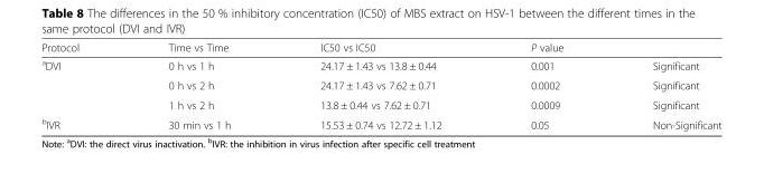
<table><thead><tr><td>Protocol</td><td>Time vs Time</td><td>IC50 vs IC50</td><td>P value</td><td></td></tr></thead><tbody><tr><td rowspan="3"><sup>a</sup>DVI</td><td>0 h vs 1 h</td><td>24.17 ± 1.43 vs 13.8 ± 0.44</td><td>0.001</td><td>Significant</td></tr><tr><td>0 h vs 2 h</td><td>24.17 ± 1.43 vs 7.62 ± 0.71</td><td>0.0002</td><td>Significant</td></tr><tr><td>1 h vs 2 h</td><td>13.8 ± 0.44 vs 7.62 ± 0.71</td><td>0.0009</td><td>Significant</td></tr><tr><td><sup>b</sup>IVR</td><td>30 min vs 1 h</td><td>15.53 ± 0.74 vs 12.72 ± 1.12</td><td>0.05</td><td>Non-Significant</td></tr></tbody></table>